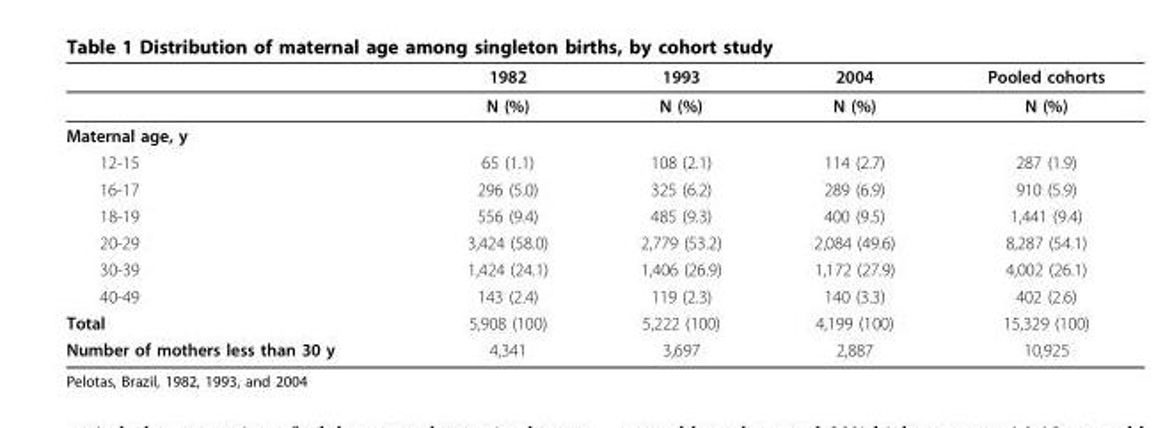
<table><thead><tr><td></td><td>1982</td><td>1993</td><td>2004</td><td>Pooled cohorts</td></tr></thead><tbody><tr><td></td><td>N (%)</td><td>N (%)</td><td>N (%)</td><td>N (%)</td></tr><tr><td colspan="5">Maternal age, y</td></tr><tr><td>12-15</td><td>65 (1.1)</td><td>108 (2.1)</td><td>114 (2.7)</td><td>287 (1.9)</td></tr><tr><td>16-17</td><td>296 (5.0)</td><td>325 (6.2)</td><td>289 (6.9)</td><td>910 (5.9)</td></tr><tr><td>18-19</td><td>556 (9.4)</td><td>485 (9.3)</td><td>400 (9.5)</td><td>1,441 (9.4)</td></tr><tr><td>20-29</td><td>3,424 (58.0)</td><td>2,779 (53.2)</td><td>2,084 (49.6)</td><td>8,287 (54.1)</td></tr><tr><td>30-39</td><td>1,424 (24.1)</td><td>1,406 (26.9)</td><td>1,172 (27.9)</td><td>4,002 (26.1)</td></tr><tr><td>40-49</td><td>143 (2.4)</td><td>119 (2.3)</td><td>140 (3.3)</td><td>402 (2.6)</td></tr><tr><td>Total</td><td>5,908 (100)</td><td>5,222 (100)</td><td>4,199 (100)</td><td>15,329 (100)</td></tr><tr><td>Number of mothers less than 30 y</td><td>4,341</td><td>3,697</td><td>2,887</td><td>10,925</td></tr></tbody></table>